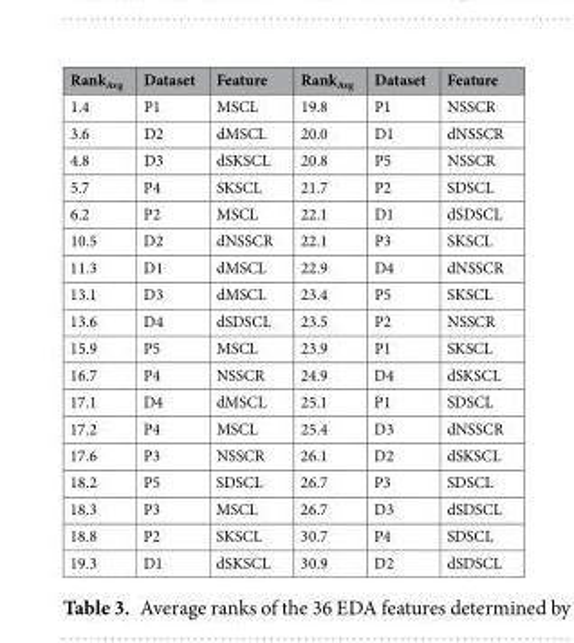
<table><thead><tr><td>Rank<sub>Avg</sub></td><td>Dataset</td><td>Feature</td><td>Rank<sub>Avg</sub></td><td>Dataset</td><td>Feature</td></tr></thead><tbody><tr><td>1.4</td><td>P1</td><td>MSCL</td><td>19.8</td><td>P1</td><td>NSSCR</td></tr><tr><td>3.6</td><td>D2</td><td>dMSCL</td><td>20.0</td><td>D1</td><td>dNSSCR</td></tr><tr><td>4.8</td><td>D3</td><td>dSKSCL</td><td>20.8</td><td>P5</td><td>NSSCR</td></tr><tr><td>5.7</td><td>P4</td><td>SKSCL</td><td>21.7</td><td>P2</td><td>SDSCL</td></tr><tr><td>6.2</td><td>P2</td><td>MSCL</td><td>22.1</td><td>D1</td><td>dSDSCL</td></tr><tr><td>10.5</td><td>D2</td><td>dNSSCR</td><td>22.1</td><td>P3</td><td>SKSCL</td></tr><tr><td>11.3</td><td>D1</td><td>dMSCL</td><td>22.9</td><td>D4</td><td>dNSSCR</td></tr><tr><td>13.1</td><td>D3</td><td>dMSCL</td><td>23.4</td><td>P5</td><td>SKSCL</td></tr><tr><td>13.6</td><td>D4</td><td>dSDSCL</td><td>23.5</td><td>P2</td><td>NSSCR</td></tr><tr><td>15.9</td><td>P5</td><td>MSCL</td><td>23.9</td><td>P1</td><td>SKSCL</td></tr><tr><td>16.7</td><td>P4</td><td>NSSCR</td><td>24.9</td><td>D4</td><td>dSKSCL</td></tr><tr><td>17.1</td><td>D4</td><td>dMSCL</td><td>25.1</td><td>P1</td><td>SDSCL</td></tr><tr><td>17.2</td><td>P4</td><td>MSCL</td><td>25.4</td><td>D3</td><td>dNSSCR</td></tr><tr><td>17.6</td><td>P3</td><td>NSSCR</td><td>26.1</td><td>D2</td><td>dSKSCL</td></tr><tr><td>18.2</td><td>P5</td><td>SDSCL</td><td>26.7</td><td>P3</td><td>SDSCL</td></tr><tr><td>18.3</td><td>P3</td><td>MSCL</td><td>26.7</td><td>D3</td><td>dSDSCL</td></tr><tr><td>18.8</td><td>P2</td><td>SKSCL</td><td>30.7</td><td>P4</td><td>SDSCL</td></tr><tr><td>19.3</td><td>D1</td><td>dSKSCL</td><td>30.9</td><td>D2</td><td>dSDSCL</td></tr></tbody></table>